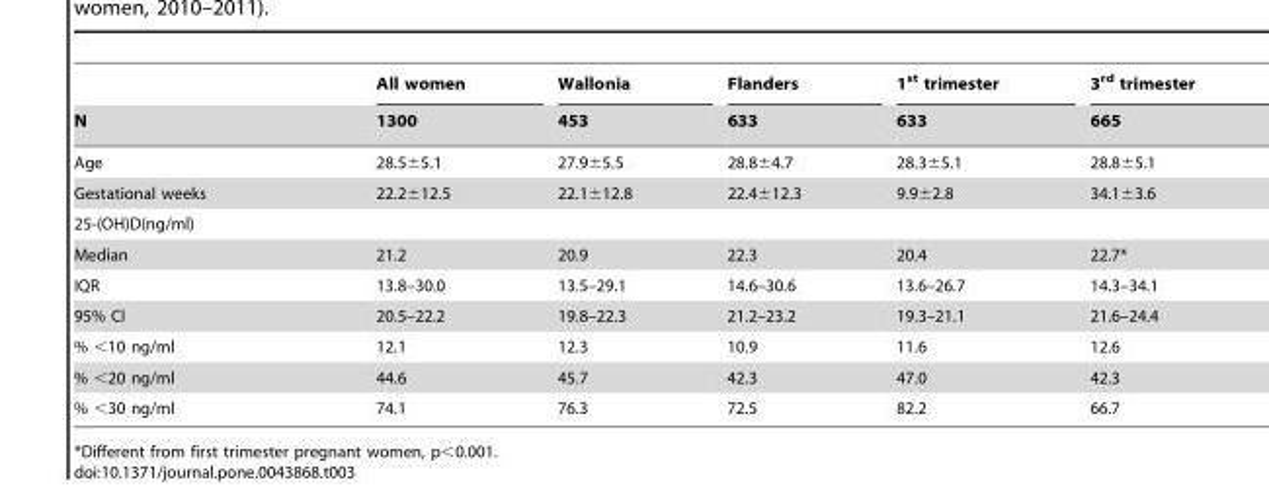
<table><thead><tr><td rowspan="2">N</td><td rowspan="2">All women 1300</td><td rowspan="2">Wallonia 453</td><td rowspan="2">Flanders 633</td><td rowspan="2">1<sup>st</sup> trimester 633</td><td rowspan="2">3<sup>rd</sup> trimester 665</td></tr><tr></tr></thead><tbody><tr><td>Age</td><td>28.5±5.1</td><td>27.9±5.5</td><td>28.8±4.7</td><td>28.3±5.1</td><td>28.8±5.1</td></tr><tr><td>Gestational weeks</td><td>22.2±12.5</td><td>22.1±12.8</td><td>22.4±12.3</td><td>9.9±2.8</td><td>34.1±3.6</td></tr><tr><td colspan="6">25-(OH)D(ng/ml)</td></tr><tr><td>Median</td><td>21.2</td><td>20.9</td><td>22.3</td><td>20.4</td><td>22.7*</td></tr><tr><td>IQR</td><td>13.8–30.0</td><td>13.5–29.1</td><td>14.6–30.6</td><td>13.6–26.7</td><td>14.3–34.1</td></tr><tr><td>95% CI</td><td>20.5–22.2</td><td>19.8–22.3</td><td>21.2–23.2</td><td>19.3–21.1</td><td>21.6–24.4</td></tr><tr><td>% &lt;10 ng/ml</td><td>12.1</td><td>12.3</td><td>10.9</td><td>11.6</td><td>12.6</td></tr><tr><td>% &lt;20 ng/ml</td><td>44.6</td><td>45.7</td><td>42.3</td><td>47.0</td><td>42.3</td></tr><tr><td>% &lt;30 ng/ml</td><td>74.1</td><td>76.3</td><td>72.5</td><td>82.2</td><td>66.7</td></tr></tbody></table>